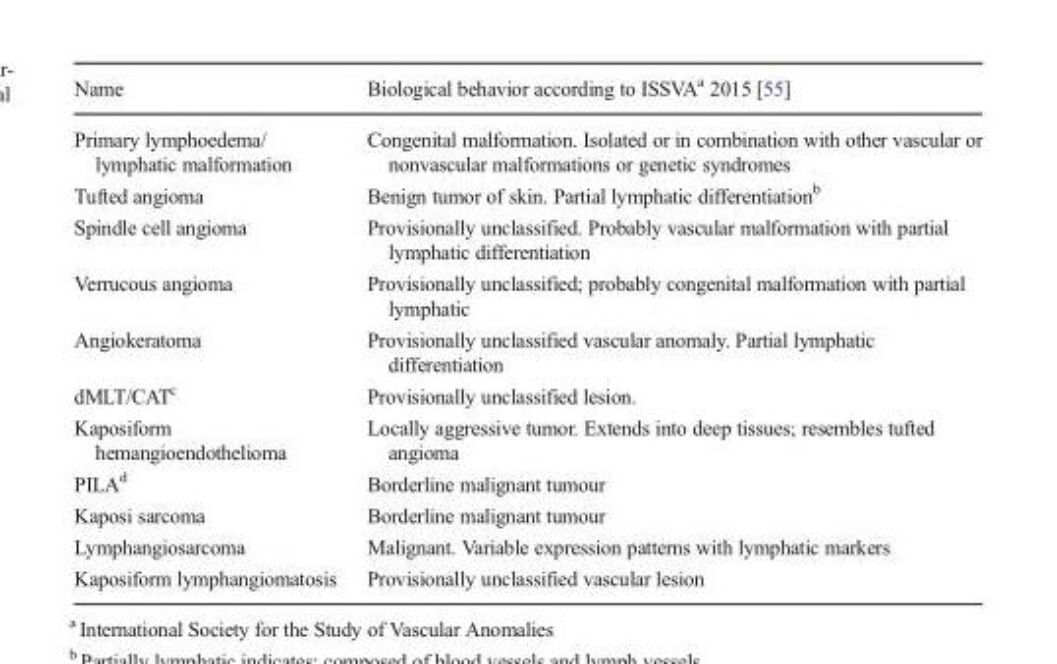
<table><thead><tr><td>Name</td><td>Biological behavior according to ISSVA<sup>a</sup> 2015 [55]</td></tr></thead><tbody><tr><td>Primary lymphoedema/ lymphatic malformation</td><td>Congenital malformation. Isolated or in combination with other vascular or nonvascular malformations or genetic syndromes</td></tr><tr><td>Tufted angioma</td><td>Benign tumor of skin. Partial lymphatic differentiation<sup>b</sup></td></tr><tr><td>Spindle cell angioma</td><td>Provisionally unclassified. Probably vascular malformation with partial lymphatic differentiation</td></tr><tr><td>Verrucous angioma</td><td>Provisionally unclassified; probably congenital malformation with partial lymphatic</td></tr><tr><td>Angiokeratoma</td><td>Provisionally unclassified vascular anomaly. Partial lymphatic differentiation</td></tr><tr><td>dMLT/CAT<sup>c</sup></td><td>Provisionally unclassified lesion.</td></tr><tr><td>Kaposiform hemangioendothelioma</td><td>Locally aggressive tumor. Extends into deep tissues; resembles tufted angioma</td></tr><tr><td>PILA<sup>d</sup></td><td>Borderline malignant tumour</td></tr><tr><td>Kaposi sarcoma</td><td>Borderline malignant tumour</td></tr><tr><td>Lymphangiosarcoma</td><td>Malignant. Variable expression patterns with lymphatic markers</td></tr><tr><td>Kaposiform lymphangiomatosis</td><td>Provisionally unclassified vascular lesion</td></tr></tbody></table>